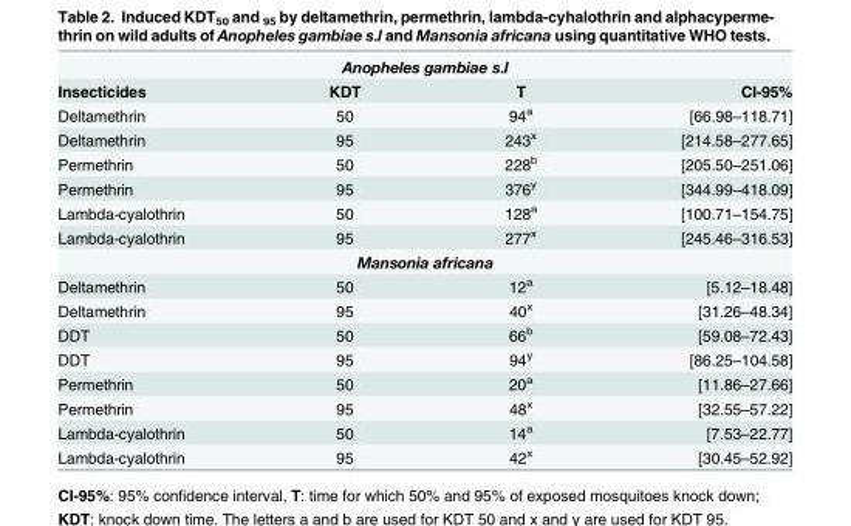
<table><tbody><tr><td colspan="4">Anopheles gambiae s.l</td></tr><tr><td>Insecticides</td><td>KDT</td><td>T</td><td>CI-95%</td></tr><tr><td>Deltamethrin</td><td>50</td><td>94<sup>a</sup></td><td>[66.98–118.71]</td></tr><tr><td>Deltamethrin</td><td>95</td><td>243<sup>x</sup></td><td>[214.58–277.65]</td></tr><tr><td>Permethrin</td><td>50</td><td>228<sup>b</sup></td><td>[205.50–251.06]</td></tr><tr><td>Permethrin</td><td>95</td><td>376<sup>y</sup></td><td>[344.99–418.09]</td></tr><tr><td>Lambda-cyalothrin</td><td>50</td><td>128<sup>a</sup></td><td>[100.71–154.75]</td></tr><tr><td>Lambda-cyalothrin</td><td>95</td><td>277<sup>x</sup></td><td>[245.46–316.53]</td></tr><tr><td colspan="4">Mansonia africana</td></tr><tr><td>Deltamethrin</td><td>50</td><td>12<sup>a</sup></td><td>[5.12–18.48]</td></tr><tr><td>Deltamethrin</td><td>95</td><td>40<sup>x</sup></td><td>[31.26–48.34]</td></tr><tr><td>DDT</td><td>50</td><td>66<sup>b</sup></td><td>[59.08–72.43]</td></tr><tr><td>DDT</td><td>95</td><td>94<sup>y</sup></td><td>[86.25–104.58]</td></tr><tr><td>Permethrin</td><td>50</td><td>20<sup>a</sup></td><td>[11.86–27.66]</td></tr><tr><td>Permethrin</td><td>95</td><td>48<sup>x</sup></td><td>[32.55–57.22]</td></tr><tr><td>Lambda-cyalothrin</td><td>50</td><td>14<sup>a</sup></td><td>[7.53–22.77]</td></tr><tr><td>Lambda-cyalothrin</td><td>95</td><td>42<sup>x</sup></td><td>[30.45–52.92]</td></tr></tbody></table>